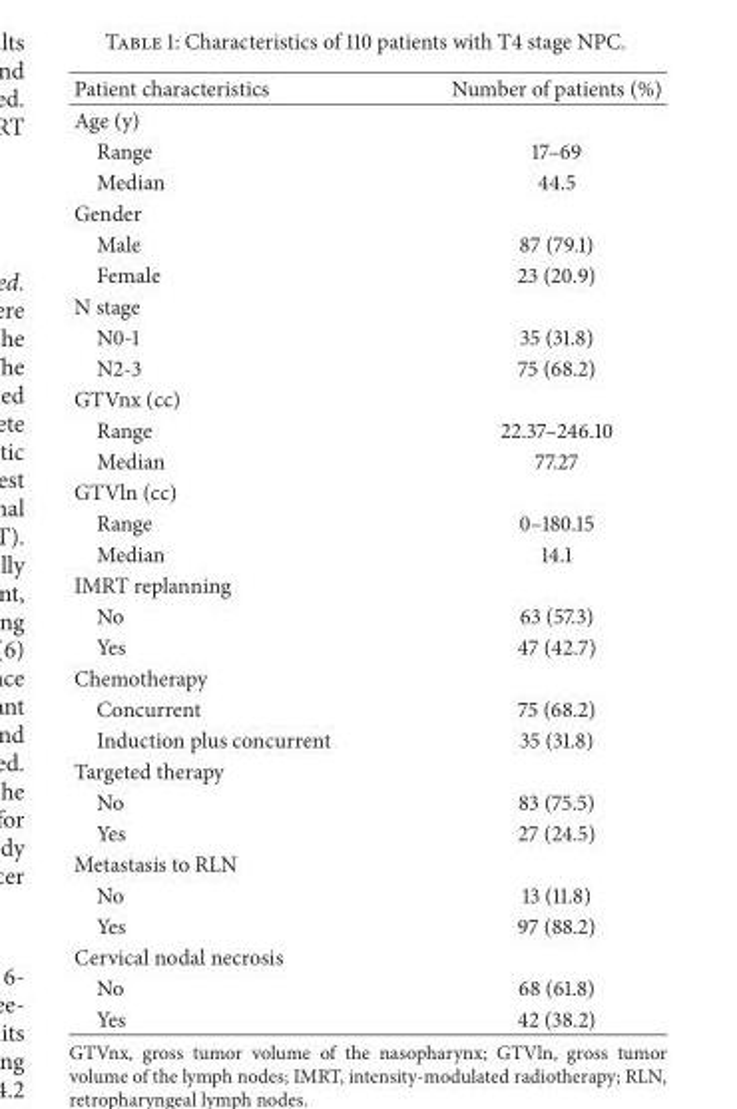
<table><thead><tr><td>Patient characteristics</td><td>Number of patients (%)</td></tr></thead><tbody><tr><td colspan="2">Age (y)</td></tr><tr><td>Range</td><td>17–69</td></tr><tr><td>Median</td><td>44.5</td></tr><tr><td colspan="2">Gender</td></tr><tr><td>Male</td><td>87 (79.1)</td></tr><tr><td>Female</td><td>23 (20.9)</td></tr><tr><td colspan="2">N stage</td></tr><tr><td>N0-1</td><td>35 (31.8)</td></tr><tr><td>N2-3</td><td>75 (68.2)</td></tr><tr><td colspan="2">GTVnx (cc)</td></tr><tr><td>Range</td><td>22.37–246.10</td></tr><tr><td>Median</td><td>77.27</td></tr><tr><td colspan="2">GTVln (cc)</td></tr><tr><td>Range</td><td>0–180.15</td></tr><tr><td>Median</td><td>14.1</td></tr><tr><td colspan="2">IMRT replanning</td></tr><tr><td>No</td><td>63 (57.3)</td></tr><tr><td>Yes</td><td>47 (42.7)</td></tr><tr><td colspan="2">Chemotherapy</td></tr><tr><td>Concurrent</td><td>75 (68.2)</td></tr><tr><td>Induction plus concurrent</td><td>35 (31.8)</td></tr><tr><td colspan="2">Targeted therapy</td></tr><tr><td>No</td><td>83 (75.5)</td></tr><tr><td>Yes</td><td>27 (24.5)</td></tr><tr><td colspan="2">Metastasis to RLN</td></tr><tr><td>No</td><td>13 (11.8)</td></tr><tr><td>Yes</td><td>97 (88.2)</td></tr><tr><td colspan="2">Cervical nodal necrosis</td></tr><tr><td>No</td><td>68 (61.8)</td></tr><tr><td>Yes</td><td>42 (38.2)</td></tr></tbody></table>